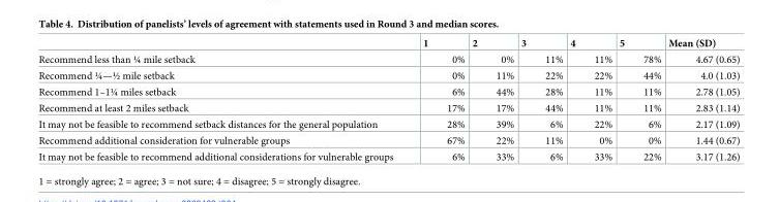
<table><thead><tr><td></td><td>1</td><td>2</td><td>3</td><td>4</td><td>5</td><td>Mean (SD)</td></tr></thead><tbody><tr><td>Recommend less than ¼ mile setback</td><td>0%</td><td>0%</td><td>11%</td><td>11%</td><td>78%</td><td>4.67 (0.65)</td></tr><tr><td>Recommend ¼—½ mile setback</td><td>0%</td><td>11%</td><td>22%</td><td>22%</td><td>44%</td><td>4.0 (1.03)</td></tr><tr><td>Recommend 1–1¼ miles setback</td><td>6%</td><td>44%</td><td>28%</td><td>11%</td><td>11%</td><td>2.78 (1.05)</td></tr><tr><td>Recommend at least 2 miles setback</td><td>17%</td><td>17%</td><td>44%</td><td>11%</td><td>11%</td><td>2.83 (1.14)</td></tr><tr><td>It may not be feasible to recommend setback distances for the general population</td><td>28%</td><td>39%</td><td>6%</td><td>22%</td><td>6%</td><td>2.17 (1.09)</td></tr><tr><td>Recommend additional consideration for vulnerable groups</td><td>67%</td><td>22%</td><td>11%</td><td>0%</td><td>0%</td><td>1.44 (0.67)</td></tr><tr><td>It may not be feasible to recommend additional considerations for vulnerable groups</td><td>6%</td><td>33%</td><td>6%</td><td>33%</td><td>22%</td><td>3.17 (1.26)</td></tr></tbody></table>